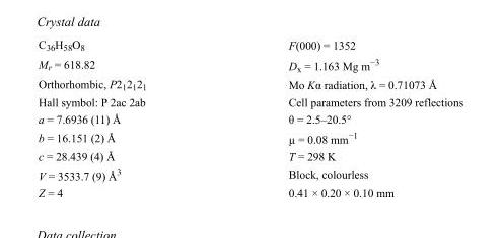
<table><tbody><tr><td>C<sub>36</sub>H<sub>58</sub>O<sub>8</sub></td><td>F(000) = 1352</td></tr><tr><td>M<sub>r</sub> = 618.82</td><td>D<sub>x</sub> = 1.163 Mg m<sup>−3</sup></td></tr><tr><td>Orthorhombic, P2<sub>1</sub>2<sub>1</sub>2<sub>1</sub></td><td>Mo Kα radiation, λ = 0.71073 Å</td></tr><tr><td>Hall symbol: P 2ac 2ab</td><td>Cell parameters from 3209 reflections</td></tr><tr><td>a = 7.6936 (11) Å</td><td>θ = 2.5–20.5°</td></tr><tr><td>b = 16.151 (2) Å</td><td>µ = 0.08 mm<sup>−1</sup></td></tr><tr><td>c = 28.439 (4) Å</td><td>T = 298 K</td></tr><tr><td>V = 3533.7 (9) Å<sup>3</sup></td><td>Block, colourless</td></tr><tr><td>Z = 4</td><td>0.41 × 0.20 × 0.10 mm</td></tr></tbody></table>